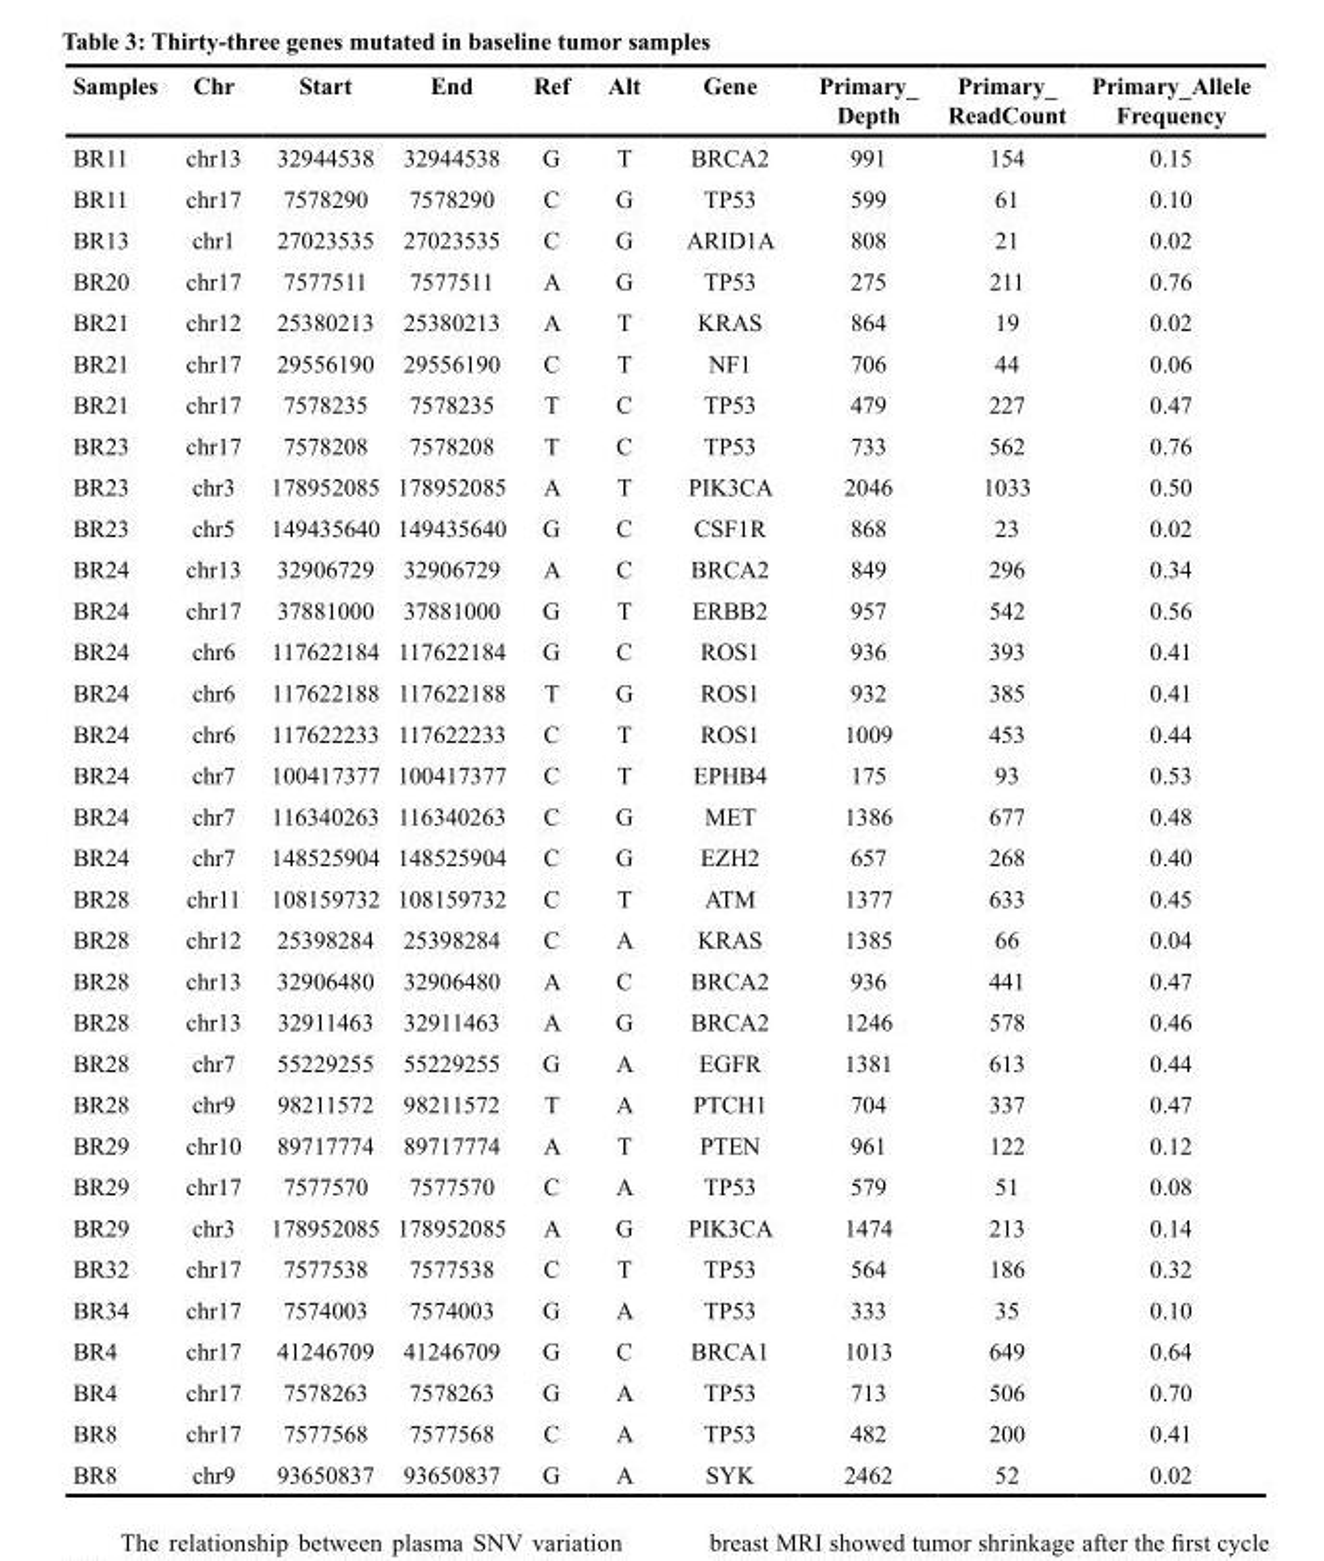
<table><thead><tr><td>Samples</td><td>Chr</td><td>Start</td><td>End</td><td>Ref</td><td>Alt</td><td>Gene</td><td>Primary_ Depth</td><td>Primary_ ReadCount</td><td>Primary_Allele Frequency</td></tr></thead><tbody><tr><td>BR11</td><td>chr13</td><td>32944538</td><td>32944538</td><td>G</td><td>T</td><td>BRCA2</td><td>991</td><td>154</td><td>0.15</td></tr><tr><td>BR11</td><td>chr17</td><td>7578290</td><td>7578290</td><td>C</td><td>G</td><td>TP53</td><td>599</td><td>61</td><td>0.10</td></tr><tr><td>BR13</td><td>chr1</td><td>27023535</td><td>27023535</td><td>C</td><td>G</td><td>ARID1A</td><td>808</td><td>21</td><td>0.02</td></tr><tr><td>BR20</td><td>chr17</td><td>7577511</td><td>7577511</td><td>A</td><td>G</td><td>TP53</td><td>275</td><td>211</td><td>0.76</td></tr><tr><td>BR21</td><td>chr12</td><td>25380213</td><td>25380213</td><td>A</td><td>T</td><td>KRAS</td><td>864</td><td>19</td><td>0.02</td></tr><tr><td>BR21</td><td>chr17</td><td>29556190</td><td>29556190</td><td>C</td><td>T</td><td>NF1</td><td>706</td><td>44</td><td>0.06</td></tr><tr><td>BR21</td><td>chr17</td><td>7578235</td><td>7578235</td><td>T</td><td>C</td><td>TP53</td><td>479</td><td>227</td><td>0.47</td></tr><tr><td>BR23</td><td>chr17</td><td>7578208</td><td>7578208</td><td>T</td><td>C</td><td>TP53</td><td>733</td><td>562</td><td>0.76</td></tr><tr><td>BR23</td><td>chr3</td><td>178952085</td><td>178952085</td><td>A</td><td>T</td><td>PIK3CA</td><td>2046</td><td>1033</td><td>0.50</td></tr><tr><td>BR23</td><td>chr5</td><td>149435640</td><td>149435640</td><td>G</td><td>C</td><td>CSF1R</td><td>868</td><td>23</td><td>0.02</td></tr><tr><td>BR24</td><td>chr13</td><td>32906729</td><td>32906729</td><td>A</td><td>C</td><td>BRCA2</td><td>849</td><td>296</td><td>0.34</td></tr><tr><td>BR24</td><td>chr17</td><td>37881000</td><td>37881000</td><td>G</td><td>T</td><td>ERBB2</td><td>957</td><td>542</td><td>0.56</td></tr><tr><td>BR24</td><td>chr6</td><td>117622184</td><td>117622184</td><td>G</td><td>C</td><td>ROS1</td><td>936</td><td>393</td><td>0.41</td></tr><tr><td>BR24</td><td>chr6</td><td>117622188</td><td>117622188</td><td>T</td><td>G</td><td>ROS1</td><td>932</td><td>385</td><td>0.41</td></tr><tr><td>BR24</td><td>chr6</td><td>117622233</td><td>117622233</td><td>C</td><td>T</td><td>ROS1</td><td>1009</td><td>453</td><td>0.44</td></tr><tr><td>BR24</td><td>chr7</td><td>100417377</td><td>100417377</td><td>C</td><td>T</td><td>EPHB4</td><td>175</td><td>93</td><td>0.53</td></tr><tr><td>BR24</td><td>chr7</td><td>116340263</td><td>116340263</td><td>C</td><td>G</td><td>MET</td><td>1386</td><td>677</td><td>0.48</td></tr><tr><td>BR24</td><td>chr7</td><td>148525904</td><td>148525904</td><td>C</td><td>G</td><td>EZH2</td><td>657</td><td>268</td><td>0.40</td></tr><tr><td>BR28</td><td>chr11</td><td>108159732</td><td>108159732</td><td>C</td><td>T</td><td>ATM</td><td>1377</td><td>633</td><td>0.45</td></tr><tr><td>BR28</td><td>chr12</td><td>25398284</td><td>25398284</td><td>C</td><td>A</td><td>KRAS</td><td>1385</td><td>66</td><td>0.04</td></tr><tr><td>BR28</td><td>chr13</td><td>32906480</td><td>32906480</td><td>A</td><td>C</td><td>BRCA2</td><td>936</td><td>441</td><td>0.47</td></tr><tr><td>BR28</td><td>chr13</td><td>32911463</td><td>32911463</td><td>A</td><td>G</td><td>BRCA2</td><td>1246</td><td>578</td><td>0.46</td></tr><tr><td>BR28</td><td>chr7</td><td>55229255</td><td>55229255</td><td>G</td><td>A</td><td>EGFR</td><td>1381</td><td>613</td><td>0.44</td></tr><tr><td>BR28</td><td>chr9</td><td>98211572</td><td>98211572</td><td>T</td><td>A</td><td>PTCH1</td><td>704</td><td>337</td><td>0.47</td></tr><tr><td>BR29</td><td>chr10</td><td>89717774</td><td>89717774</td><td>A</td><td>T</td><td>PTEN</td><td>961</td><td>122</td><td>0.12</td></tr><tr><td>BR29</td><td>chr17</td><td>7577570</td><td>7577570</td><td>C</td><td>A</td><td>TP53</td><td>579</td><td>51</td><td>0.08</td></tr><tr><td>BR29</td><td>chr3</td><td>178952085</td><td>178952085</td><td>A</td><td>G</td><td>PIK3CA</td><td>1474</td><td>213</td><td>0.14</td></tr><tr><td>BR32</td><td>chr17</td><td>7577538</td><td>7577538</td><td>C</td><td>T</td><td>TP53</td><td>564</td><td>186</td><td>0.32</td></tr><tr><td>BR34</td><td>chr17</td><td>7574003</td><td>7574003</td><td>G</td><td>A</td><td>TP53</td><td>333</td><td>35</td><td>0.10</td></tr><tr><td>BR4</td><td>chr17</td><td>41246709</td><td>41246709</td><td>G</td><td>C</td><td>BRCA1</td><td>1013</td><td>649</td><td>0.64</td></tr><tr><td>BR4</td><td>chr17</td><td>7578263</td><td>7578263</td><td>G</td><td>A</td><td>TP53</td><td>713</td><td>506</td><td>0.70</td></tr><tr><td>BR8</td><td>chr17</td><td>7577568</td><td>7577568</td><td>C</td><td>A</td><td>TP53</td><td>482</td><td>200</td><td>0.41</td></tr><tr><td>BR8</td><td>chr9</td><td>93650837</td><td>93650837</td><td>G</td><td>A</td><td>SYK</td><td>2462</td><td>52</td><td>0.02</td></tr></tbody></table>